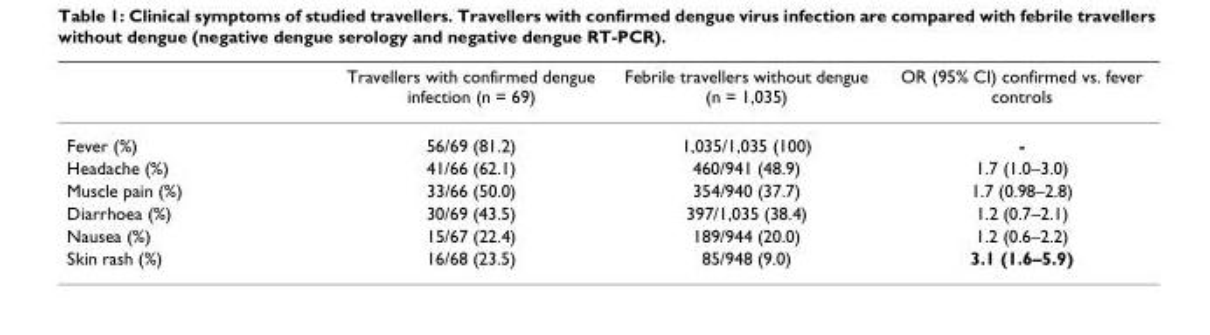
<table><thead><tr><td></td><td>Travellers with confirmed dengue infection (n = 69)</td><td>Febrile travellers without dengue (n = 1,035)</td><td>OR (95% CI) confirmed vs. fever controls</td></tr></thead><tbody><tr><td>Fever (%)</td><td>56/69 (81.2)</td><td>1,035/1,035 (100)</td><td>-</td></tr><tr><td>Headache (%)</td><td>41/66 (62.1)</td><td>460/941 (48.9)</td><td>1.7 (1.0–3.0)</td></tr><tr><td>Muscle pain (%)</td><td>33/66 (50.0)</td><td>354/940 (37.7)</td><td>1.7 (0.98–2.8)</td></tr><tr><td>Diarrhoea (%)</td><td>30/69 (43.5)</td><td>397/1,035 (38.4)</td><td>1.2 (0.7–2.1)</td></tr><tr><td>Nausea (%)</td><td>15/67 (22.4)</td><td>189/944 (20.0)</td><td>1.2 (0.6–2.2)</td></tr><tr><td>Skin rash (%)</td><td>16/68 (23.5)</td><td>85/948 (9.0)</td><td>3.1 (1.6–5.9)</td></tr></tbody></table>